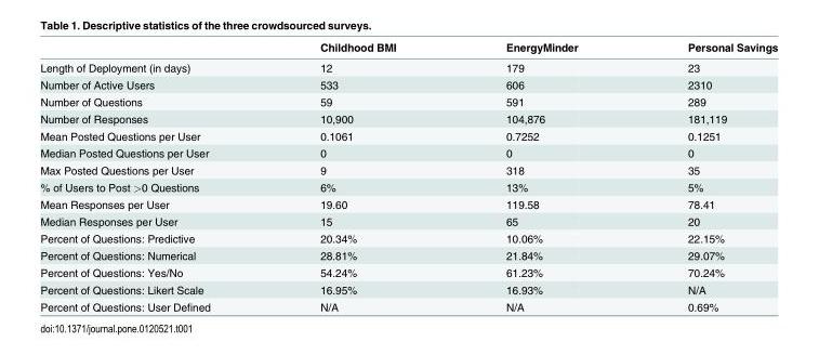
<table><thead><tr><td></td><td>Childhood BMI</td><td>EnergyMinder</td><td>Personal Savings</td></tr></thead><tbody><tr><td>Length of Deployment (in days)</td><td>12</td><td>179</td><td>23</td></tr><tr><td>Number of Active Users</td><td>533</td><td>606</td><td>2310</td></tr><tr><td>Number of Questions</td><td>59</td><td>591</td><td>289</td></tr><tr><td>Number of Responses</td><td>10,900</td><td>104,876</td><td>181,119</td></tr><tr><td>Mean Posted Questions per User</td><td>0.1061</td><td>0.7252</td><td>0.1251</td></tr><tr><td>Median Posted Questions per User</td><td>0</td><td>0</td><td>0</td></tr><tr><td>Max Posted Questions per User</td><td>9</td><td>318</td><td>35</td></tr><tr><td>% of Users to Post &gt;0 Questions</td><td>6%</td><td>13%</td><td>5%</td></tr><tr><td>Mean Responses per User</td><td>19.60</td><td>119.58</td><td>78.41</td></tr><tr><td>Median Responses per User</td><td>15</td><td>65</td><td>20</td></tr><tr><td>Percent of Questions: Predictive</td><td>20.34%</td><td>10.06%</td><td>22.15%</td></tr><tr><td>Percent of Questions: Numerical</td><td>28.81%</td><td>21.84%</td><td>29.07%</td></tr><tr><td>Percent of Questions: Yes/No</td><td>54.24%</td><td>61.23%</td><td>70.24%</td></tr><tr><td>Percent of Questions: Likert Scale</td><td>16.95%</td><td>16.93%</td><td>N/A</td></tr><tr><td>Percent of Questions: User Defined</td><td>N/A</td><td>N/A</td><td>0.69%</td></tr></tbody></table>